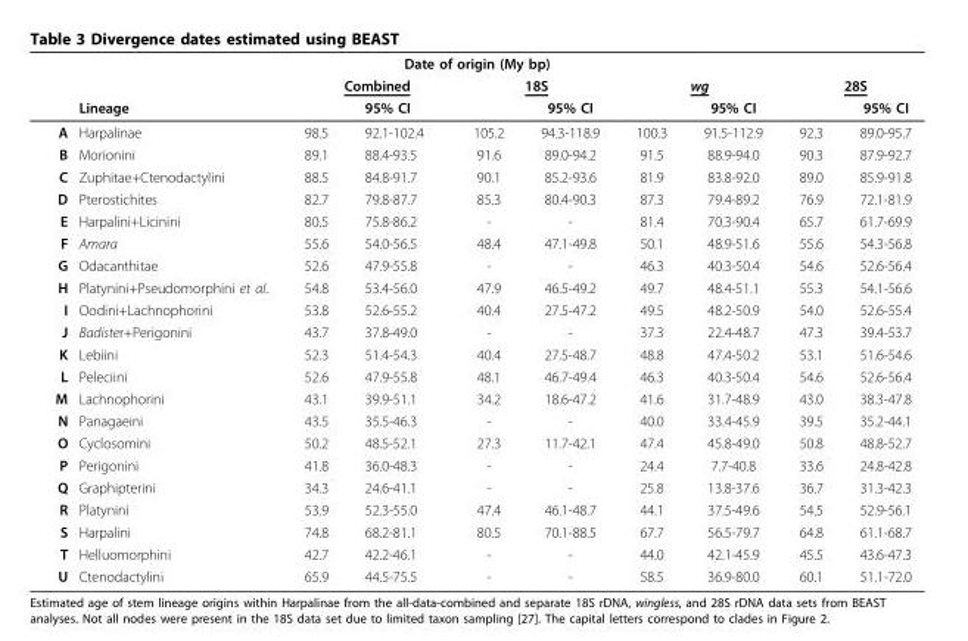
<table><thead><tr><td colspan="10">Date of origin (My bp)</td></tr><tr><td rowspan="2"></td><td rowspan="2">Lineage</td><td colspan="2">Combined</td><td colspan="2">18S</td><td colspan="2">wg</td><td colspan="2">28S</td></tr><tr><td></td><td>95% CI</td><td></td><td>95% CI</td><td></td><td>95% CI</td><td></td><td>95% CI</td></tr></thead><tbody><tr><td>A</td><td>Harpalinae</td><td>98.5</td><td>92.1-102.4</td><td>105.2</td><td>94.3-118.9</td><td>100.3</td><td>91.5-112.9</td><td>92.3</td><td>89.0-95.7</td></tr><tr><td>B</td><td>Morionini</td><td>89.1</td><td>88.4-93.5</td><td>91.6</td><td>89.0-94.2</td><td>91.5</td><td>88.9-94.0</td><td>90.3</td><td>87.9-92.7</td></tr><tr><td>C</td><td>Zuphitae+Ctenodactylini</td><td>88.5</td><td>84.8-91.7</td><td>90.1</td><td>85.2-93.6</td><td>81.9</td><td>83.8-92.0</td><td>89.0</td><td>85.9-91.8</td></tr><tr><td>D</td><td>Pterostichites</td><td>82.7</td><td>79.8-87.7</td><td>85.3</td><td>80.4-90.3</td><td>87.3</td><td>79.4-89.2</td><td>76.9</td><td>72.1-81.9</td></tr><tr><td>E</td><td>Harpalini+Licinini</td><td>80.5</td><td>75.8-86.2</td><td>-</td><td>-</td><td>81.4</td><td>70.3-90.4</td><td>65.7</td><td>61.7-69.9</td></tr><tr><td>F</td><td>Amara</td><td>55.6</td><td>54.0-56.5</td><td>48.4</td><td>47.1-49.8</td><td>50.1</td><td>48.9-51.6</td><td>55.6</td><td>54.3-56.8</td></tr><tr><td>G</td><td>Odacanthitae</td><td>52.6</td><td>47.9-55.8</td><td>-</td><td>-</td><td>46.3</td><td>40.3-50.4</td><td>54.6</td><td>52.6-56.4</td></tr><tr><td>H</td><td>Platynini+Pseudomorphini et al.</td><td>54.8</td><td>53.4-56.0</td><td>47.9</td><td>46.5-49.2</td><td>49.7</td><td>48.4-51.1</td><td>55.3</td><td>54.1-56.6</td></tr><tr><td>I</td><td>Oodini+Lachnophorini</td><td>53.8</td><td>52.6-55.2</td><td>40.4</td><td>27.5-47.2</td><td>49.5</td><td>48.2-50.9</td><td>54.0</td><td>52.6-55.4</td></tr><tr><td>J</td><td>Badister+Perigonini</td><td>43.7</td><td>37.8-49.0</td><td>-</td><td>-</td><td>37.3</td><td>22.4-48.7</td><td>47.3</td><td>39.4-53.7</td></tr><tr><td>K</td><td>Lebiini</td><td>52.3</td><td>51.4-54.3</td><td>40.4</td><td>27.5-48.7</td><td>48.8</td><td>47.4-50.2</td><td>53.1</td><td>51.6-54.6</td></tr><tr><td>L</td><td>Peleciini</td><td>52.6</td><td>47.9-55.8</td><td>48.1</td><td>46.7-49.4</td><td>46.3</td><td>40.3-50.4</td><td>54.6</td><td>52.6-56.4</td></tr><tr><td>M</td><td>Lachnophorini</td><td>43.1</td><td>39.9-51.1</td><td>34.2</td><td>18.6-47.2</td><td>41.6</td><td>31.7-48.9</td><td>43.0</td><td>38.3-47.8</td></tr><tr><td>N</td><td>Panagaeini</td><td>43.5</td><td>35.5-46.3</td><td>-</td><td>-</td><td>40.0</td><td>33.4-45.9</td><td>39.5</td><td>35.2-44.1</td></tr><tr><td>O</td><td>Cyclosomini</td><td>50.2</td><td>48.5-52.1</td><td>27.3</td><td>11.7-42.1</td><td>47.4</td><td>45.8-49.0</td><td>50.8</td><td>48.8-52.7</td></tr><tr><td>P</td><td>Perigonini</td><td>41.8</td><td>36.0-48.3</td><td>-</td><td>-</td><td>24.4</td><td>7.7-40.8</td><td>33.6</td><td>24.8-42.8</td></tr><tr><td>Q</td><td>Graphipterini</td><td>34.3</td><td>24.6-41.1</td><td>-</td><td>-</td><td>25.8</td><td>13.8-37.6</td><td>36.7</td><td>31.3-42.3</td></tr><tr><td>R</td><td>Platynini</td><td>53.9</td><td>52.3-55.0</td><td>47.4</td><td>46.1-48.7</td><td>44.1</td><td>37.5-49.6</td><td>54.5</td><td>52.9-56.1</td></tr><tr><td>S</td><td>Harpalini</td><td>74.8</td><td>68.2-81.1</td><td>80.5</td><td>70.1-88.5</td><td>67.7</td><td>56.5-79.7</td><td>64.8</td><td>61.1-68.7</td></tr><tr><td>T</td><td>Helluomorphini</td><td>42.7</td><td>42.2-46.1</td><td>-</td><td>-</td><td>44.0</td><td>42.1-45.9</td><td>45.5</td><td>43.6-47.3</td></tr><tr><td>U</td><td>Ctenodactylini</td><td>65.9</td><td>44.5-75.5</td><td>-</td><td>-</td><td>58.5</td><td>36.9-80.0</td><td>60.1</td><td>51.1-72.0</td></tr></tbody></table>